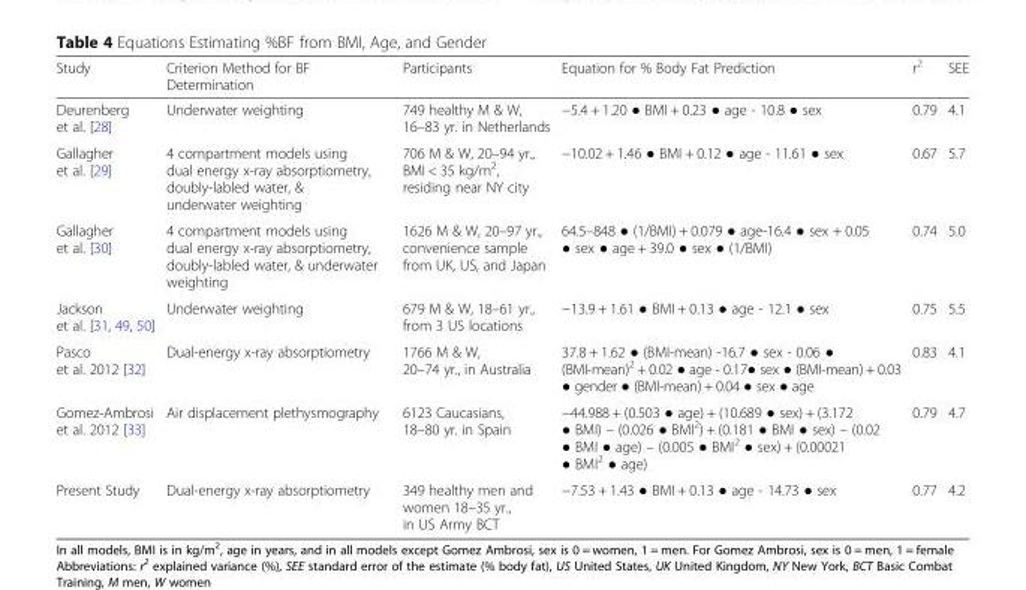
<table><thead><tr><td>Study</td><td>Criterion Method for BF Determination</td><td>Participants</td><td>Equation for % Body Fat Prediction</td><td>r<sup>2</sup></td><td>SEE</td></tr></thead><tbody><tr><td>Deurenberg et al. [28]</td><td>Underwater weighting</td><td>749 healthy M &amp; W, 16–83 yr. in Netherlands</td><td>−5.4 + 1.20 ● BMI + 0.23 ● age - 10.8 ● sex</td><td>0.79</td><td>4.1</td></tr><tr><td>Gallagher et al. [29]</td><td>4 compartment models using dual energy x-ray absorptiometry, doubly-labled water, &amp; underwater weighting</td><td>706 M &amp; W, 20–94 yr., BMI &lt; 35 kg/m<sup>2</sup>, residing near NY city</td><td>−10.02 + 1.46 ● BMI + 0.12 ● age - 11.61 ● sex</td><td>0.67</td><td>5.7</td></tr><tr><td>Gallagher et al. [30]</td><td>4 compartment models using dual energy x-ray absorptiometry, doubly-labled water, &amp; underwater weighting</td><td>1626 M &amp; W, 20–97 yr., convenience sample from UK, US, and Japan</td><td>64.5–848 ● (1/BMI) + 0.079 ● age-16.4 ● sex + 0.05 ● sex ● age + 39.0 ● sex ● (1/BMI)</td><td>0.74</td><td>5.0</td></tr><tr><td>Jackson et al. [31, 49, 50]</td><td>Underwater weighting</td><td>679 M &amp; W, 18–61 yr., from 3 US locations</td><td>−13.9 + 1.61 ● BMI + 0.13 ● age - 12.1 ● sex</td><td>0.75</td><td>5.5</td></tr><tr><td>Pasco et al. 2012 [32]</td><td>Dual-energy x-ray absorptiometry</td><td>1766 M &amp; W, 20–74 yr., in Australia</td><td>37.8 + 1.62 ● (BMI-mean) -16.7 ● sex - 0.06 ● (BMI-mean)<sup>2</sup> + 0.02 ● age - 0.17● sex ● (BMI-mean) + 0.03 ● gender ● (BMI-mean) + 0.04 ● sex ● age</td><td>0.83</td><td>4.1</td></tr><tr><td>Gomez-Ambrosi et al. 2012 [33]</td><td>Air displacement plethysmography</td><td>6123 Caucasians, 18–80 yr. in Spain</td><td>−44.988 + (0.503 ● age) + (10.689 ● sex) + (3.172 ● BMI) – (0.026 ● BMI<sup>2</sup>) + (0.181 ● BMI ● sex) – (0.02 ● BMI ● age) – (0.005 ● BMI<sup>2</sup> ● sex) + (0.00021 ● BMI<sup>2</sup> ● age)</td><td>0.79</td><td>4.7</td></tr><tr><td>Present Study</td><td>Dual-energy x-ray absorptiometry</td><td>349 healthy men and women 18–35 yr., in US Army BCT</td><td>−7.53 + 1.43 ● BMI + 0.13 ● age - 14.73 ● sex</td><td>0.77</td><td>4.2</td></tr></tbody></table>